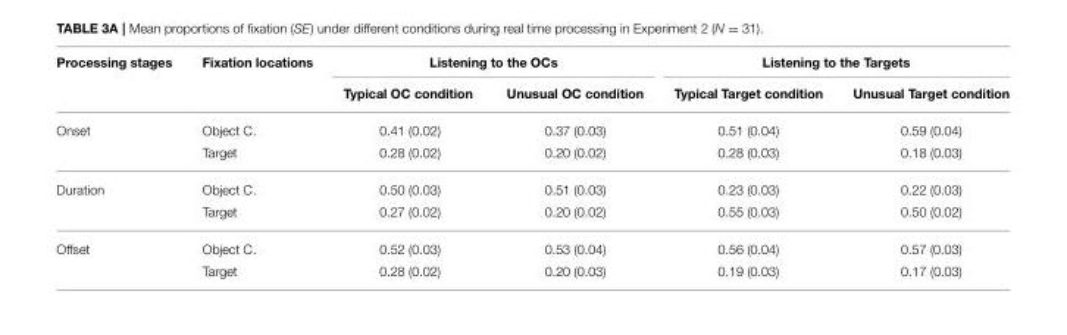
<table><thead><tr><td rowspan="2">Processing stages</td><td rowspan="2">Fixation locations</td><td colspan="2">Listening to the OCs</td><td colspan="2">Listening to the Targets</td></tr><tr><td>Typical OC condition</td><td>Unusual OC condition</td><td>Typical Target condition</td><td>Unusual Target condition</td></tr></thead><tbody><tr><td rowspan="2">Onset</td><td>Object C.</td><td>0.41 (0.02)</td><td>0.37 (0.03)</td><td>0.51 (0.04)</td><td>0.59 (0.04)</td></tr><tr><td>Target</td><td>0.28 (0.02)</td><td>0.20 (0.02)</td><td>0.28 (0.03)</td><td>0.18 (0.03)</td></tr><tr><td rowspan="2">Duration</td><td>Object C.</td><td>0.50 (0.03)</td><td>0.51 (0.03)</td><td>0.23 (0.03)</td><td>0.22 (0.03)</td></tr><tr><td>Target</td><td>0.27 (0.02)</td><td>0.20 (0.02)</td><td>0.55 (0.03)</td><td>0.50 (0.02)</td></tr><tr><td rowspan="2">Offset</td><td>Object C.</td><td>0.52 (0.03)</td><td>0.53 (0.04)</td><td>0.56 (0.04)</td><td>0.57 (0.03)</td></tr><tr><td>Target</td><td>0.28 (0.02)</td><td>0.20 (0.03)</td><td>0.19 (0.03)</td><td>0.17 (0.03)</td></tr></tbody></table>